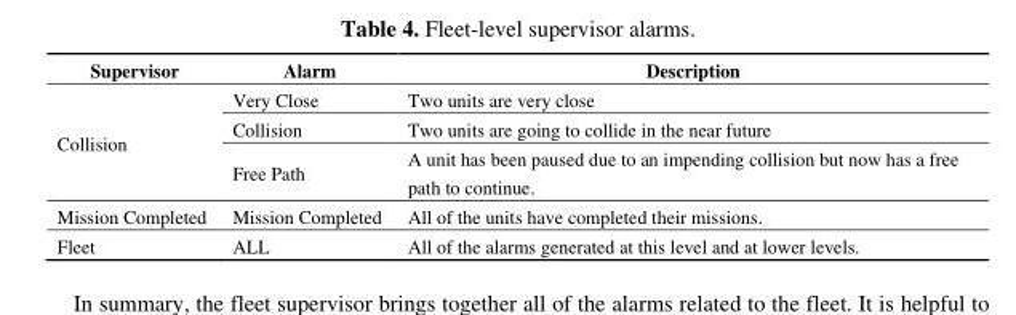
<table><thead><tr><td>Supervisor</td><td>Alarm</td><td>Description</td></tr></thead><tbody><tr><td rowspan="3">Collision</td><td>Very Close</td><td>Two units are very close</td></tr><tr><td>Collision</td><td>Two units are going to collide in the near future</td></tr><tr><td>Free Path</td><td>A unit has been paused due to an impending collision but now has a free path to continue.</td></tr><tr><td>Mission Completed</td><td>Mission Completed</td><td>All of the units have completed their missions.</td></tr><tr><td>Fleet</td><td>ALL</td><td>All of the alarms generated at this level and at lower levels.</td></tr></tbody></table>